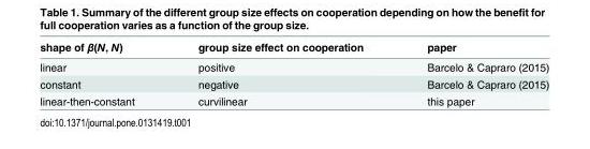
<table><thead><tr><td>shape of β(N, N)</td><td>group size effect on cooperation</td><td>paper</td></tr></thead><tbody><tr><td>linear</td><td>positive</td><td>Barcelo &amp; Capraro (2015)</td></tr><tr><td>constant</td><td>negative</td><td>Barcelo &amp; Capraro (2015)</td></tr><tr><td>linear-then-constant</td><td>curvilinear</td><td>this paper</td></tr></tbody></table>